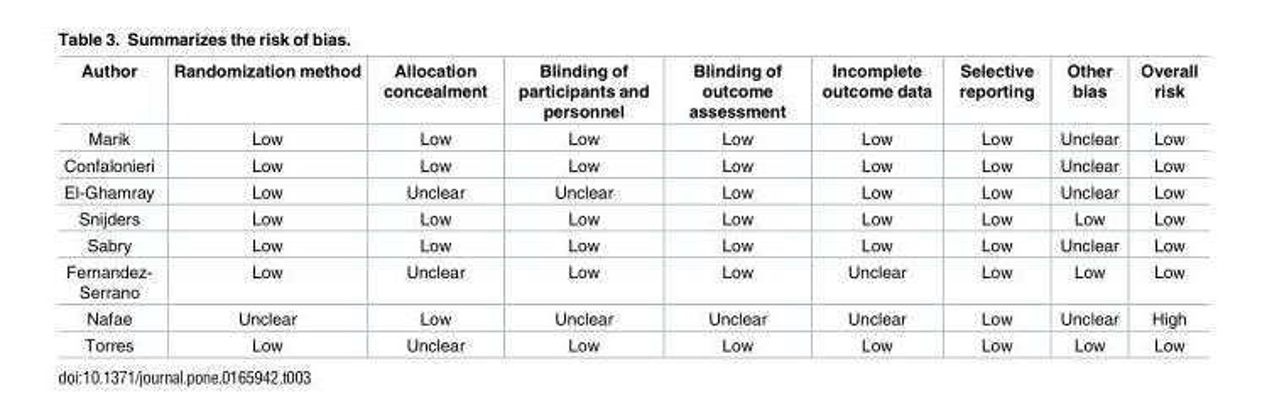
<table><thead><tr><td>Author</td><td>Randomization method</td><td>Allocation concealment</td><td>Blinding of participants and personnel</td><td>Blinding of outcome assessment</td><td>Incomplete outcome data</td><td>Selective reporting</td><td>Other bias</td><td>Overall risk</td></tr></thead><tbody><tr><td>Marik</td><td>Low</td><td>Low</td><td>Low</td><td>Low</td><td>Low</td><td>Low</td><td>Unclear</td><td>Low</td></tr><tr><td>Confalonieri</td><td>Low</td><td>Low</td><td>Low</td><td>Low</td><td>Low</td><td>Low</td><td>Unclear</td><td>Low</td></tr><tr><td>El-Ghamray</td><td>Low</td><td>Unclear</td><td>Unclear</td><td>Low</td><td>Low</td><td>Low</td><td>Unclear</td><td>Low</td></tr><tr><td>Snijders</td><td>Low</td><td>Low</td><td>Low</td><td>Low</td><td>Low</td><td>Low</td><td>Low</td><td>Low</td></tr><tr><td>Sabry</td><td>Low</td><td>Low</td><td>Low</td><td>Low</td><td>Low</td><td>Low</td><td>Unclear</td><td>Low</td></tr><tr><td>Fernandez- Serrano</td><td>Low</td><td>Unclear</td><td>Low</td><td>Low</td><td>Unclear</td><td>Low</td><td>Low</td><td>Low</td></tr><tr><td>Nafae</td><td>Unclear</td><td>Low</td><td>Unclear</td><td>Unclear</td><td>Unclear</td><td>Low</td><td>Unclear</td><td>High</td></tr><tr><td>Torres</td><td>Low</td><td>Unclear</td><td>Low</td><td>Low</td><td>Low</td><td>Low</td><td>Low</td><td>Low</td></tr></tbody></table>